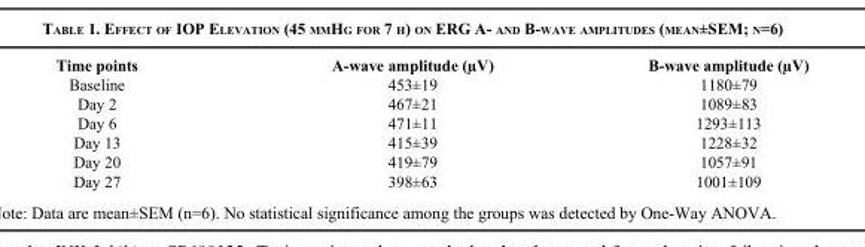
<table><thead><tr><td>Time points</td><td>A-wave amplitude (µV)</td><td>B-wave amplitude (µV)</td></tr></thead><tbody><tr><td>Baseline</td><td>453±19</td><td>1180±79</td></tr><tr><td>Day 2</td><td>467±21</td><td>1089±83</td></tr><tr><td>Day 6</td><td>471±11</td><td>1293±113</td></tr><tr><td>Day 13</td><td>415±39</td><td>1228±32</td></tr><tr><td>Day 20</td><td>419±79</td><td>1057±91</td></tr><tr><td>Day 27</td><td>398±63</td><td>1001±109</td></tr></tbody></table>